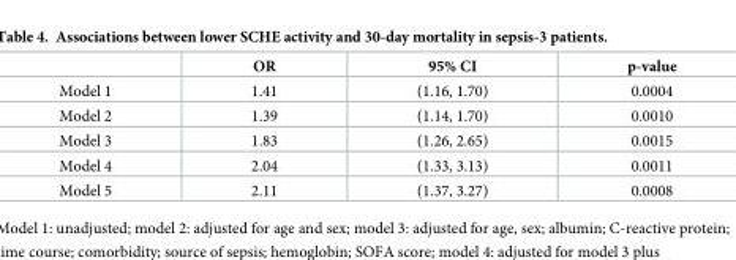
<table><thead><tr><td></td><td>OR</td><td>95% CI</td><td>p-value</td></tr></thead><tbody><tr><td>Model 1</td><td>1.41</td><td>(1.16, 1.70)</td><td>0.0004</td></tr><tr><td>Model 2</td><td>1.39</td><td>(1.14, 1.70)</td><td>0.0010</td></tr><tr><td>Model 3</td><td>1.83</td><td>(1.26, 2.65)</td><td>0.0015</td></tr><tr><td>Model 4</td><td>2.04</td><td>(1.33, 3.13)</td><td>0.0011</td></tr><tr><td>Model 5</td><td>2.11</td><td>(1.37, 3.27)</td><td>0.0008</td></tr></tbody></table>